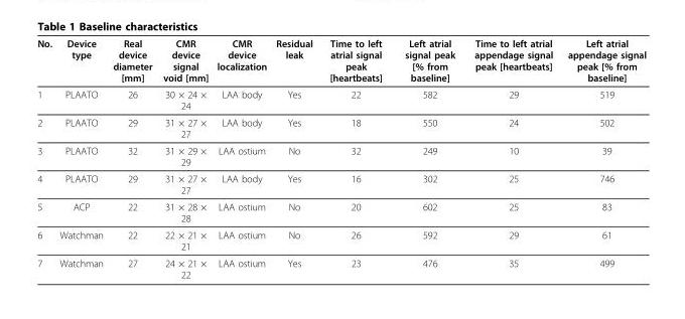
<table><thead><tr><td>No.</td><td>Device type</td><td>Real device diameter [mm]</td><td>CMR device signal void [mm]</td><td>CMR device localization</td><td>Residual leak</td><td>Time to left atrial signal peak [heartbeats]</td><td>Left atrial signal peak [% from baseline]</td><td>Time to left atrial appendage signal peak [heartbeats]</td><td>Left atrial appendage signal peak [% from baseline]</td></tr></thead><tbody><tr><td>1</td><td>PLAATO</td><td>26</td><td>30 × 24 × 24</td><td>LAA body</td><td>Yes</td><td>22</td><td>582</td><td>29</td><td>519</td></tr><tr><td>2</td><td>PLAATO</td><td>29</td><td>31 × 27 × 27</td><td>LAA body</td><td>Yes</td><td>18</td><td>550</td><td>24</td><td>502</td></tr><tr><td>3</td><td>PLAATO</td><td>32</td><td>31 × 29 × 29</td><td>LAA ostium</td><td>No</td><td>32</td><td>249</td><td>10</td><td>39</td></tr><tr><td>4</td><td>PLAATO</td><td>29</td><td>31 × 27 × 27</td><td>LAA body</td><td>Yes</td><td>16</td><td>302</td><td>25</td><td>746</td></tr><tr><td>5</td><td>ACP</td><td>22</td><td>31 × 28 × 28</td><td>LAA ostium</td><td>No</td><td>20</td><td>602</td><td>25</td><td>83</td></tr><tr><td>6</td><td>Watchman</td><td>22</td><td>22 × 21 × 21</td><td>LAA ostium</td><td>No</td><td>26</td><td>592</td><td>29</td><td>61</td></tr><tr><td>7</td><td>Watchman</td><td>27</td><td>24 × 21 × 22</td><td>LAA ostium</td><td>Yes</td><td>23</td><td>476</td><td>35</td><td>499</td></tr></tbody></table>